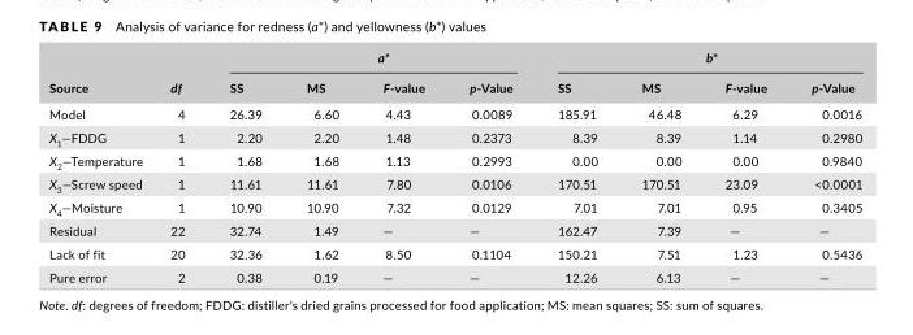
<table><thead><tr><td rowspan="2">Source</td><td rowspan="2">df</td><td colspan="4">a*</td><td colspan="4">b*</td></tr><tr><td>SS</td><td>MS</td><td>F- value</td><td>p- Value</td><td>SS</td><td>MS</td><td>F- value</td><td>p- Value</td></tr></thead><tbody><tr><td>Model</td><td>4</td><td>26.39</td><td>6.60</td><td>4.43</td><td>0.0089</td><td>185.91</td><td>46.48</td><td>6.29</td><td>0.0016</td></tr><tr><td>X<sub>1</sub>—FDDG</td><td>1</td><td>2.20</td><td>2.20</td><td>1.48</td><td>0.2373</td><td>8.39</td><td>8.39</td><td>1.14</td><td>0.2980</td></tr><tr><td>X<sub>2</sub>—Temperature</td><td>1</td><td>1.68</td><td>1.68</td><td>1.13</td><td>0.2993</td><td>0.00</td><td>0.00</td><td>0.00</td><td>0.9840</td></tr><tr><td>X<sub>3</sub>—Screw speed</td><td>1</td><td>11.61</td><td>11.61</td><td>7.80</td><td>0.0106</td><td>170.51</td><td>170.51</td><td>23.09</td><td>&lt;0.0001</td></tr><tr><td>X<sub>4</sub>—Moisture</td><td>1</td><td>10.90</td><td>10.90</td><td>7.32</td><td>0.0129</td><td>7.01</td><td>7.01</td><td>0.95</td><td>0.3405</td></tr><tr><td>Residual</td><td>22</td><td>32.74</td><td>1.49</td><td>—</td><td>—</td><td>162.47</td><td>7.39</td><td>—</td><td>—</td></tr><tr><td>Lack of fit</td><td>20</td><td>32.36</td><td>1.62</td><td>8.50</td><td>0.1104</td><td>150.21</td><td>7.51</td><td>1.23</td><td>0.5436</td></tr><tr><td>Pure error</td><td>2</td><td>0.38</td><td>0.19</td><td>—</td><td>—</td><td>12.26</td><td>6.13</td><td>—</td><td>—</td></tr></tbody></table>